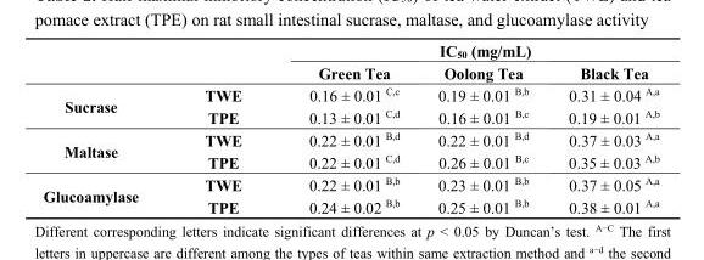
<table><thead><tr><td rowspan="2"></td><td rowspan="2"></td><td colspan="3">IC<sub>50</sub> (mg/mL)</td></tr><tr><td>Green Tea</td><td>Oolong Tea</td><td>Black Tea</td></tr></thead><tbody><tr><td rowspan="2">Sucrase</td><td>TWE</td><td>0.16 ± 0.01 <sup>C,c</sup></td><td>0.19 ± 0.01 <sup>B,b</sup></td><td>0.31 ± 0.04 <sup>A,a</sup></td></tr><tr><td>TPE</td><td>0.13 ± 0.01 <sup>C,d</sup></td><td>0.16 ± 0.01 <sup>B,c</sup></td><td>0.19 ± 0.01 <sup>A,b</sup></td></tr><tr><td rowspan="2">Maltase</td><td>TWE</td><td>0.22 ± 0.01 <sup>B,d</sup></td><td>0.22 ± 0.01 <sup>B,d</sup></td><td>0.37 ± 0.03 <sup>A,a</sup></td></tr><tr><td>TPE</td><td>0.22 ± 0.01 <sup>C,d</sup></td><td>0.26 ± 0.01 <sup>B,c</sup></td><td>0.35 ± 0.03 <sup>A,b</sup></td></tr><tr><td rowspan="2">Glucoamylase</td><td>TWE</td><td>0.22 ± 0.01 <sup>B,b</sup></td><td>0.23 ± 0.01 <sup>B,b</sup></td><td>0.37 ± 0.05 <sup>A,a</sup></td></tr><tr><td>TPE</td><td>0.24 ± 0.02 <sup>B,b</sup></td><td>0.25 ± 0.01 <sup>B,b</sup></td><td>0.38 ± 0.01 <sup>A,a</sup></td></tr></tbody></table>